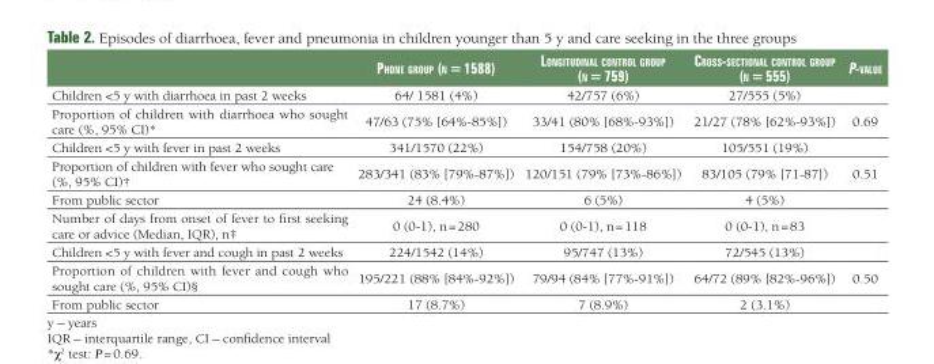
<table><thead><tr><td></td><td>Phone grouP (n = 1588)</td><td>LongitudinaL controL grouP (n = 759)</td><td>cross-sectionaL controL grouP (n = 555)</td><td>P-vaLue</td></tr></thead><tbody><tr><td>Children &lt;5 y with diarrhoea in past 2 weeks</td><td>64/ 1581 (4%)</td><td>42/757 (6%)</td><td>27/555 (5%)</td><td></td></tr><tr><td>Proportion of children with diarrhoea who sought care (%, 95% CI)*</td><td>47/63 (75% [64%-85%])</td><td>33/41 (80% [68%-93%])</td><td>21/27 (78% [62%-93%])</td><td>0.69</td></tr><tr><td>Children &lt;5 y with fever in past 2 weeks</td><td>341/1570 (22%)</td><td>154/758 (20%)</td><td>105/551 (19%)</td><td></td></tr><tr><td>Proportion of children with fever who sought care (%, 95% CI)†</td><td>283/341 (83% [79%-87%])</td><td>120/151 (79% [73%-86%])</td><td>83/105 (79% [71-87])</td><td>0.51</td></tr><tr><td>From public sector</td><td>24 (8.4%)</td><td>6 (5%)</td><td>4 (5%)</td><td></td></tr><tr><td>Number of days from onset of fever to first seeking care or advice (Median, IQR), n‡</td><td>0 (0-1), n = 280</td><td>0 (0-1), n = 118</td><td>0 (0-1), n = 83</td><td></td></tr><tr><td>Children &lt;5 y with fever and cough in past 2 weeks</td><td>224/1542 (14%)</td><td>95/747 (13%)</td><td>72/545 (13%)</td><td></td></tr><tr><td>Proportion of children with fever and cough who sought care (%, 95% CI)§</td><td>195/221 (88% [84%-92%])</td><td>79/94 (84% [77%-91%])</td><td>64/72 (89% [82%-96%])</td><td>0.50</td></tr><tr><td>From public sector</td><td>17 (8.7%)</td><td>7 (8.9%)</td><td>2 (3.1%)</td><td></td></tr></tbody></table>